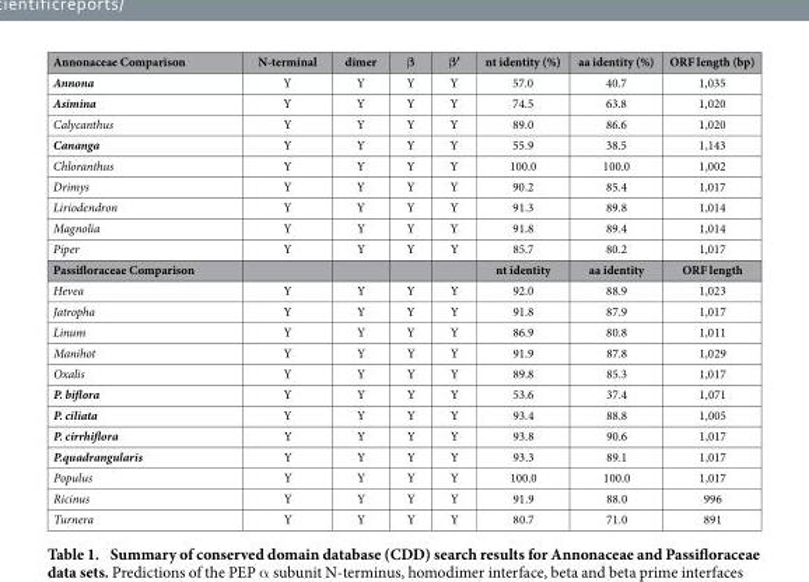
<table><thead><tr><td>Annonaceae Comparison</td><td>N-terminal</td><td>dimer</td><td>β</td><td>β′</td><td>nt identity (%)</td><td>aa identity (%)</td><td>ORF length (bp)</td></tr></thead><tbody><tr><td>Annona</td><td>Y</td><td>Y</td><td>Y</td><td>Y</td><td>57.0</td><td>40.7</td><td>1,035</td></tr><tr><td>Asimina</td><td>Y</td><td>Y</td><td>Y</td><td>Y</td><td>74.5</td><td>63.8</td><td>1,020</td></tr><tr><td>Calycanthus</td><td>Y</td><td>Y</td><td>Y</td><td>Y</td><td>89.0</td><td>86.6</td><td>1,020</td></tr><tr><td>Cananga</td><td>Y</td><td>Y</td><td>Y</td><td>Y</td><td>55.9</td><td>38.5</td><td>1,143</td></tr><tr><td>Chloranthus</td><td>Y</td><td>Y</td><td>Y</td><td>Y</td><td>100.0</td><td>100.0</td><td>1,002</td></tr><tr><td>Drimys</td><td>Y</td><td>Y</td><td>Y</td><td>Y</td><td>90.2</td><td>85.4</td><td>1,017</td></tr><tr><td>Liriodendron</td><td>Y</td><td>Y</td><td>Y</td><td>Y</td><td>91.3</td><td>89.8</td><td>1,014</td></tr><tr><td>Magnolia</td><td>Y</td><td>Y</td><td>Y</td><td>Y</td><td>91.8</td><td>89.4</td><td>1,014</td></tr><tr><td>Piper</td><td>Y</td><td>Y</td><td>Y</td><td>Y</td><td>85.7</td><td>80.2</td><td>1,017</td></tr><tr><td>Passifloraceae Comparison</td><td></td><td></td><td></td><td></td><td>nt identity</td><td>aa identity</td><td>ORF length</td></tr><tr><td>Hevea</td><td>Y</td><td>Y</td><td>Y</td><td>Y</td><td>92.0</td><td>88.9</td><td>1,023</td></tr><tr><td>Jatropha</td><td>Y</td><td>Y</td><td>Y</td><td>Y</td><td>91.8</td><td>87.9</td><td>1,017</td></tr><tr><td>Linum</td><td>Y</td><td>Y</td><td>Y</td><td>Y</td><td>86.9</td><td>80.8</td><td>1,011</td></tr><tr><td>Manihot</td><td>Y</td><td>Y</td><td>Y</td><td>Y</td><td>91.9</td><td>87.8</td><td>1,029</td></tr><tr><td>Oxalis</td><td>Y</td><td>Y</td><td>Y</td><td>Y</td><td>89.8</td><td>85.3</td><td>1,017</td></tr><tr><td>P. biflora</td><td>Y</td><td>Y</td><td>Y</td><td>Y</td><td>53.6</td><td>37.4</td><td>1,071</td></tr><tr><td>P. ciliata</td><td>Y</td><td>Y</td><td>Y</td><td>Y</td><td>93.4</td><td>88.8</td><td>1,005</td></tr><tr><td>P. cirrhiflora</td><td>Y</td><td>Y</td><td>Y</td><td>Y</td><td>93.8</td><td>90.6</td><td>1,017</td></tr><tr><td>P.quadrangularis</td><td>Y</td><td>Y</td><td>Y</td><td>Y</td><td>93.3</td><td>89.1</td><td>1,017</td></tr><tr><td>Populus</td><td>Y</td><td>Y</td><td>Y</td><td>Y</td><td>100.0</td><td>100.0</td><td>1,017</td></tr><tr><td>Ricinus</td><td>Y</td><td>Y</td><td>Y</td><td>Y</td><td>91.9</td><td>88.0</td><td>996</td></tr><tr><td>Turnera</td><td>Y</td><td>Y</td><td>Y</td><td>Y</td><td>80.7</td><td>71.0</td><td>891</td></tr></tbody></table>